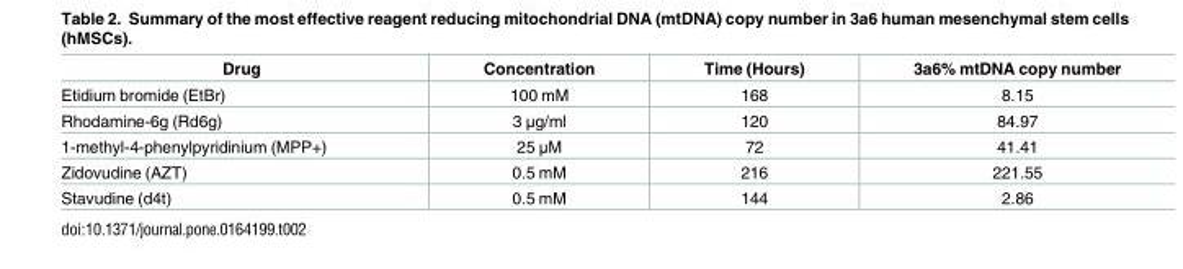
<table><thead><tr><td>Drug</td><td>Concentration</td><td>Time (Hours)</td><td>3a6% mtDNA copy number</td></tr></thead><tbody><tr><td>Etidium bromide (EtBr)</td><td>100 mM</td><td>168</td><td>8.15</td></tr><tr><td>Rhodamine-6g (Rd6g)</td><td>3 μg/ml</td><td>120</td><td>84.97</td></tr><tr><td>1-methyl-4-phenylpyridinium (MPP+)</td><td>25 μM</td><td>72</td><td>41.41</td></tr><tr><td>Zidovudine (AZT)</td><td>0.5 mM</td><td>216</td><td>221.55</td></tr><tr><td>Stavudine (d4t)</td><td>0.5 mM</td><td>144</td><td>2.86</td></tr></tbody></table>